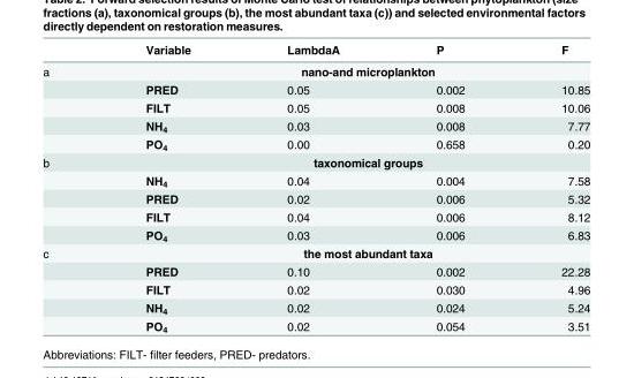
<table><thead><tr><td></td><td>Variable</td><td>LambdaA</td><td>P</td><td>F</td></tr></thead><tbody><tr><td rowspan="5">a</td><td colspan="4">nano-and microplankton</td></tr><tr><td>PRED</td><td>0.05</td><td>0.002</td><td>10.85</td></tr><tr><td>FILT</td><td>0.05</td><td>0.008</td><td>10.06</td></tr><tr><td>NH<sub>4</sub></td><td>0.03</td><td>0.008</td><td>7.77</td></tr><tr><td>PO<sub>4</sub></td><td>0.00</td><td>0.658</td><td>0.20</td></tr><tr><td rowspan="5">b</td><td colspan="4">taxonomical groups</td></tr><tr><td>NH<sub>4</sub></td><td>0.04</td><td>0.004</td><td>7.58</td></tr><tr><td>PRED</td><td>0.02</td><td>0.006</td><td>5.32</td></tr><tr><td>FILT</td><td>0.04</td><td>0.006</td><td>8.12</td></tr><tr><td>PO<sub>4</sub></td><td>0.03</td><td>0.006</td><td>6.83</td></tr><tr><td rowspan="5">c</td><td colspan="4">the most abundant taxa</td></tr><tr><td>PRED</td><td>0.10</td><td>0.002</td><td>22.28</td></tr><tr><td>FILT</td><td>0.02</td><td>0.030</td><td>4.96</td></tr><tr><td>NH<sub>4</sub></td><td>0.02</td><td>0.024</td><td>5.24</td></tr><tr><td>PO<sub>4</sub></td><td>0.02</td><td>0.054</td><td>3.51</td></tr></tbody></table>